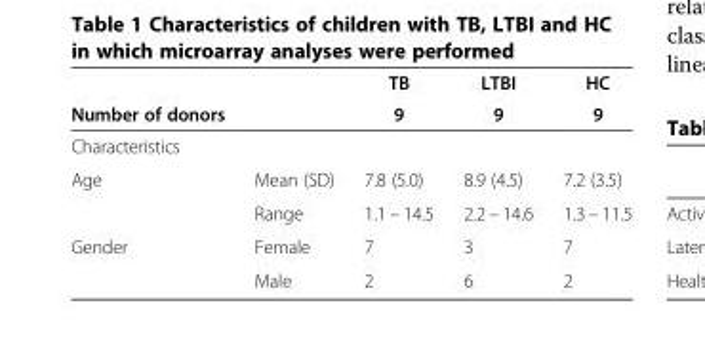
<table><thead><tr><td rowspan="2">Number of donors</td><td rowspan="2"></td><td rowspan="2">TB 9</td><td rowspan="2">LTBI 9</td><td rowspan="2">HC 9</td></tr><tr></tr></thead><tbody><tr><td colspan="5">Characteristics</td></tr><tr><td rowspan="2">Age</td><td>Mean (SD)</td><td>7.8 (5.0)</td><td>8.9 (4.5)</td><td>7.2 (3.5)</td></tr><tr><td>Range</td><td>1.1 – 14.5</td><td>2.2 – 14.6</td><td>1.3 – 11.5</td></tr><tr><td rowspan="2">Gender</td><td>Female</td><td>7</td><td>3</td><td>7</td></tr><tr><td>Male</td><td>2</td><td>6</td><td>2</td></tr></tbody></table>